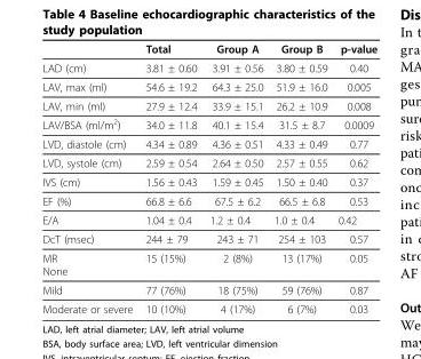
<table><thead><tr><td></td><td>Total</td><td>Group A</td><td>Group B</td><td>p-value</td></tr></thead><tbody><tr><td>LAD (cm)</td><td>3.81 ± 0.60</td><td>3.91 ± 0.56</td><td>3.80 ± 0.59</td><td>0.40</td></tr><tr><td>LAV, max (ml)</td><td>54.6 ± 19.2</td><td>64.3 ± 25.0</td><td>51.9 ± 16.0</td><td>0.005</td></tr><tr><td>LAV, min (ml)</td><td>27.9 ± 12.4</td><td>33.9 ± 15.1</td><td>26.2 ± 10.9</td><td>0.008</td></tr><tr><td>LAV/BSA (ml/m<sup>2</sup>)</td><td>34.0 ± 11.8</td><td>40.1 ± 15.4</td><td>31.5 ± 8.7</td><td>0.0009</td></tr><tr><td>LVD, diastole (cm)</td><td>4.34 ± 0.89</td><td>4.36 ± 0.51</td><td>4.33 ± 0.49</td><td>0.77</td></tr><tr><td>LVD, systole (cm)</td><td>2.59 ± 0.54</td><td>2.64 ± 0.50</td><td>2.57 ± 0.55</td><td>0.62</td></tr><tr><td>IVS (cm)</td><td>1.56 ± 0.43</td><td>1.59 ± 0.45</td><td>1.50 ± 0.40</td><td>0.37</td></tr><tr><td>EF (%)</td><td>66.8 ± 6.6</td><td>67.5 ± 6.2</td><td>66.5 ± 6.8</td><td>0.53</td></tr><tr><td>E/A</td><td>1.04 ± 0.4</td><td>1.2 ± 0.4</td><td>1.0 ± 0.4</td><td>0.42</td></tr><tr><td>DcT (msec)</td><td>244 ± 79</td><td>243 ± 71</td><td>254 ± 103</td><td>0.57</td></tr><tr><td>MR None</td><td>15 (15%)</td><td>2 (8%)</td><td>13 (17%)</td><td>0.05</td></tr><tr><td>Mild</td><td>77 (76%)</td><td>18 (75%)</td><td>59 (76%)</td><td>0.87</td></tr><tr><td>Moderate or severe</td><td>10 (10%)</td><td>4 (17%)</td><td>6 (7%)</td><td>0.03</td></tr></tbody></table>